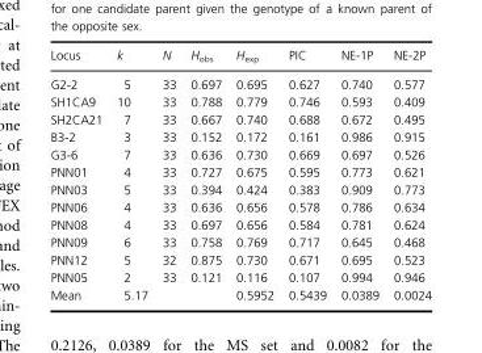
<table><thead><tr><td>Locus</td><td>k</td><td>N</td><td>H<sub>obs</sub></td><td>H<sub>exp</sub></td><td>PIC</td><td>NE-1P</td><td>NE-2P</td></tr></thead><tbody><tr><td>G2-2</td><td>5</td><td>33</td><td>0.697</td><td>0.695</td><td>0.627</td><td>0.740</td><td>0.577</td></tr><tr><td>SH1CA9</td><td>10</td><td>33</td><td>0.788</td><td>0.779</td><td>0.746</td><td>0.593</td><td>0.409</td></tr><tr><td>SH2CA21</td><td>7</td><td>33</td><td>0.667</td><td>0.740</td><td>0.688</td><td>0.672</td><td>0.495</td></tr><tr><td>B3-2</td><td>3</td><td>33</td><td>0.152</td><td>0.172</td><td>0.161</td><td>0.986</td><td>0.915</td></tr><tr><td>G3-6</td><td>7</td><td>33</td><td>0.636</td><td>0.730</td><td>0.669</td><td>0.697</td><td>0.526</td></tr><tr><td>PNN01</td><td>4</td><td>33</td><td>0.727</td><td>0.675</td><td>0.595</td><td>0.773</td><td>0.621</td></tr><tr><td>PNN03</td><td>5</td><td>33</td><td>0.394</td><td>0.424</td><td>0.383</td><td>0.909</td><td>0.773</td></tr><tr><td>PNN06</td><td>4</td><td>33</td><td>0.636</td><td>0.656</td><td>0.578</td><td>0.786</td><td>0.634</td></tr><tr><td>PNN08</td><td>4</td><td>33</td><td>0.697</td><td>0.656</td><td>0.584</td><td>0.781</td><td>0.624</td></tr><tr><td>PNN09</td><td>6</td><td>33</td><td>0.758</td><td>0.769</td><td>0.717</td><td>0.645</td><td>0.468</td></tr><tr><td>PNN12</td><td>5</td><td>32</td><td>0.875</td><td>0.730</td><td>0.671</td><td>0.695</td><td>0.523</td></tr><tr><td>PNN05</td><td>2</td><td>33</td><td>0.121</td><td>0.116</td><td>0.107</td><td>0.994</td><td>0.946</td></tr><tr><td>Mean</td><td>5.17</td><td></td><td></td><td>0.5952</td><td>0.5439</td><td>0.0389</td><td>0.0024</td></tr></tbody></table>